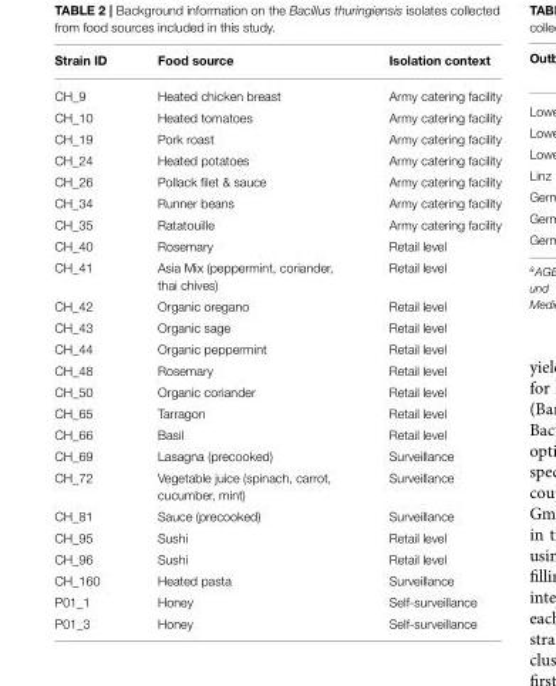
<table><thead><tr><td>Strain ID</td><td>Food source</td><td>Isolation context</td></tr></thead><tbody><tr><td>CH_9</td><td>Heated chicken breast</td><td>Army catering facility</td></tr><tr><td>CH_10</td><td>Heated tomatoes</td><td>Army catering facility</td></tr><tr><td>CH_19</td><td>Pork roast</td><td>Army catering facility</td></tr><tr><td>CH_24</td><td>Heated potatoes</td><td>Army catering facility</td></tr><tr><td>CH_26</td><td>Pollack filet &amp; sauce</td><td>Army catering facility</td></tr><tr><td>CH_34</td><td>Runner beans</td><td>Army catering facility</td></tr><tr><td>CH_35</td><td>Ratatouille</td><td>Army catering facility</td></tr><tr><td>CH_40</td><td>Rosemary</td><td>Retail level</td></tr><tr><td>CH_41</td><td>Asia Mix (peppermint, coriander, thai chives)</td><td>Retail level</td></tr><tr><td>CH_42</td><td>Organic oregano</td><td>Retail level</td></tr><tr><td>CH_43</td><td>Organic sage</td><td>Retail level</td></tr><tr><td>CH_44</td><td>Organic peppermint</td><td>Retail level</td></tr><tr><td>CH_48</td><td>Rosemary</td><td>Retail level</td></tr><tr><td>CH_50</td><td>Organic coriander</td><td>Retail level</td></tr><tr><td>CH_65</td><td>Tarragon</td><td>Retail level</td></tr><tr><td>CH_66</td><td>Basil</td><td>Retail level</td></tr><tr><td>CH_69</td><td>Lasagna (precooked)</td><td>Surveillance</td></tr><tr><td>CH_72</td><td>Vegetable juice (spinach, carrot, cucumber, mint)</td><td>Surveillance</td></tr><tr><td>CH_81</td><td>Sauce (precooked)</td><td>Surveillance</td></tr><tr><td>CH_95</td><td>Sushi</td><td>Retail level</td></tr><tr><td>CH_96</td><td>Sushi</td><td>Retail level</td></tr><tr><td>CH_160</td><td>Heated pasta</td><td>Surveillance</td></tr><tr><td>P01_1</td><td>Honey</td><td>Self-surveillance</td></tr><tr><td>P01_3</td><td>Honey</td><td>Self-surveillance</td></tr></tbody></table>